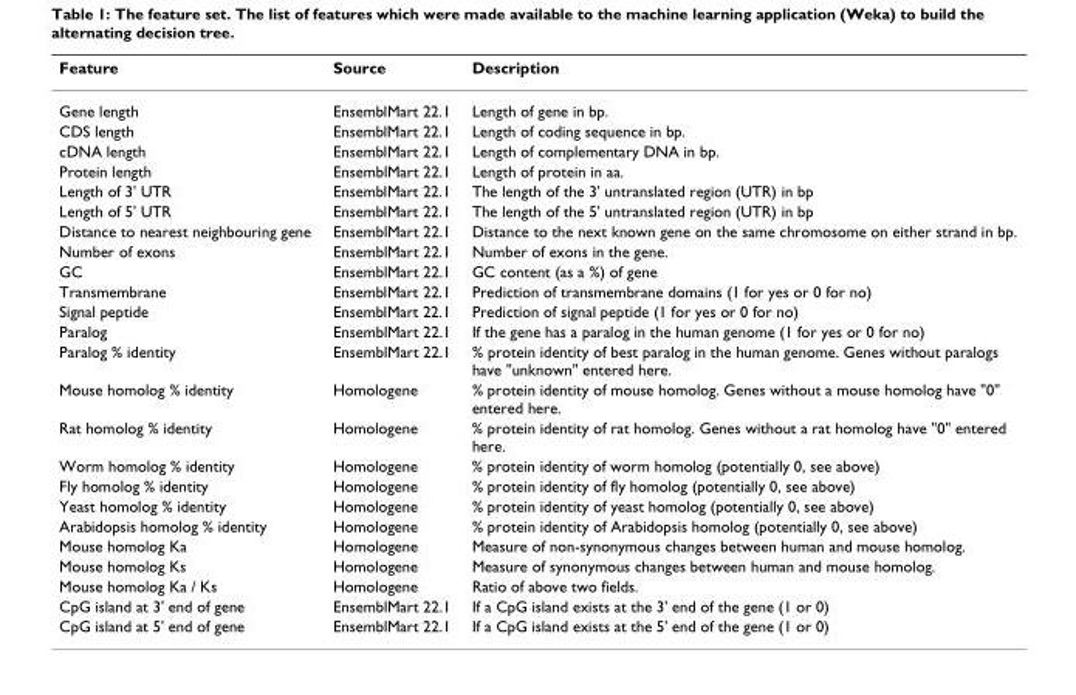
<table><thead><tr><td>Feature</td><td>Source</td><td>Description</td></tr></thead><tbody><tr><td>Gene length</td><td>EnsemblMart 22.1</td><td>Length of gene in bp.</td></tr><tr><td>CDS length</td><td>EnsemblMart 22.1</td><td>Length of coding sequence in bp.</td></tr><tr><td>cDNA length</td><td>EnsemblMart 22.1</td><td>Length of complementary DNA in bp.</td></tr><tr><td>Protein length</td><td>EnsemblMart 22.1</td><td>Length of protein in aa.</td></tr><tr><td>Length of 3&#x27; UTR</td><td>EnsemblMart 22.1</td><td>The length of the 3&#x27; untranslated region (UTR) in bp</td></tr><tr><td>Length of 5&#x27; UTR</td><td>EnsemblMart 22.1</td><td>The length of the 5&#x27; untranslated region (UTR) in bp</td></tr><tr><td>Distance to nearest neighbouring gene</td><td>EnsemblMart 22.1</td><td>Distance to the next known gene on the same chromosome on either strand in bp.</td></tr><tr><td>Number of exons</td><td>EnsemblMart 22.1</td><td>Number of exons in the gene.</td></tr><tr><td>GC</td><td>EnsemblMart 22.1</td><td>GC content (as a %) of gene</td></tr><tr><td>Transmembrane</td><td>EnsemblMart 22.1</td><td>Prediction of transmembrane domains (1 for yes or 0 for no)</td></tr><tr><td>Signal peptide</td><td>EnsemblMart 22.1</td><td>Prediction of signal peptide (1 for yes or 0 for no)</td></tr><tr><td>Paralog</td><td>EnsemblMart 22.1</td><td>If the gene has a paralog in the human genome (1 for yes or 0 for no)</td></tr><tr><td>Paralog % identity</td><td>EnsemblMart 22.1</td><td>% protein identity of best paralog in the human genome. Genes without paralogs have &quot;unknown&quot; entered here.</td></tr><tr><td>Mouse homolog % identity</td><td>Homologene</td><td>% protein identity of mouse homolog. Genes without a mouse homolog have &quot;0&quot; entered here.</td></tr><tr><td>Rat homolog % identity</td><td>Homologene</td><td>% protein identity of rat homolog. Genes without a rat homolog have &quot;0&quot; entered here.</td></tr><tr><td>Worm homolog % identity</td><td>Homologene</td><td>% protein identity of worm homolog (potentially 0, see above)</td></tr><tr><td>Fly homolog % identity</td><td>Homologene</td><td>% protein identity of fly homolog (potentially 0, see above)</td></tr><tr><td>Yeast homolog % identity</td><td>Homologene</td><td>% protein identity of yeast homolog (potentially 0, see above)</td></tr><tr><td>Arabidopsis homolog % identity</td><td>Homologene</td><td>% protein identity of Arabidopsis homolog (potentially 0, see above)</td></tr><tr><td>Mouse homolog Ka</td><td>Homologene</td><td>Measure of non-synonymous changes between human and mouse homolog.</td></tr><tr><td>Mouse homolog Ks</td><td>Homologene</td><td>Measure of synonymous changes between human and mouse homolog.</td></tr><tr><td>Mouse homolog Ka / Ks</td><td>Homologene</td><td>Ratio of above two fields.</td></tr><tr><td>CpG island at 3&#x27; end of gene</td><td>EnsemblMart 22.1</td><td>If a CpG island exists at the 3&#x27; end of the gene (1 or 0)</td></tr><tr><td>CpG island at 5&#x27; end of gene</td><td>EnsemblMart 22.1</td><td>If a CpG island exists at the 5&#x27; end of the gene (1 or 0)</td></tr></tbody></table>